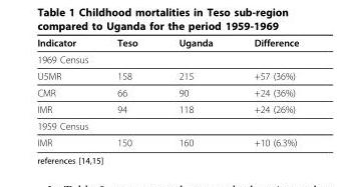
<table><thead><tr><td>Indicator</td><td>Teso</td><td>Uganda</td><td>Difference</td></tr></thead><tbody><tr><td colspan="4">1969 Census</td></tr><tr><td>U5MR</td><td>158</td><td>215</td><td>+57 (36%)</td></tr><tr><td>CMR</td><td>66</td><td>90</td><td>+24 (36%)</td></tr><tr><td>IMR</td><td>94</td><td>118</td><td>+24 (26%)</td></tr><tr><td colspan="4">1959 Census</td></tr><tr><td>IMR</td><td>150</td><td>160</td><td>+10 (6.3%)</td></tr></tbody></table>